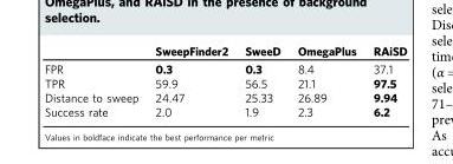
<table><thead><tr><td></td><td>SweepFinder2</td><td>SweeD</td><td>OmegaPlus</td><td>RAiSD</td></tr></thead><tbody><tr><td>FPR</td><td>0.3</td><td>0.3</td><td>8.4</td><td>37.1</td></tr><tr><td>TPR</td><td>59.9</td><td>56.5</td><td>21.1</td><td>97.5</td></tr><tr><td>Distance to sweep</td><td>24.47</td><td>25.33</td><td>26.89</td><td>9.94</td></tr><tr><td>Success rate</td><td>2.0</td><td>1.9</td><td>2.3</td><td>6.2</td></tr></tbody></table>